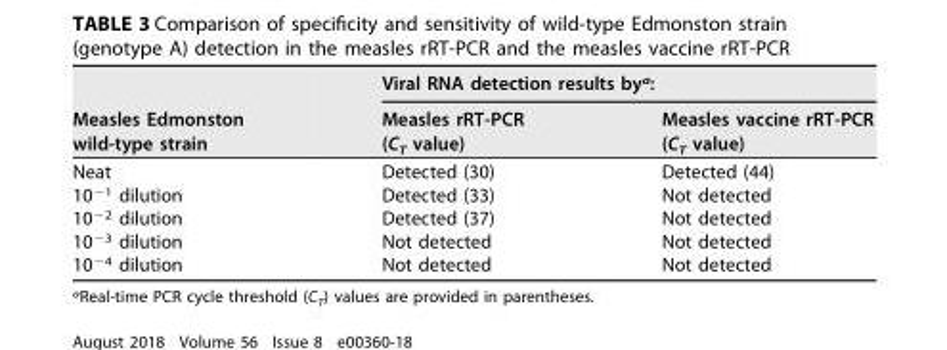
<table><thead><tr><td rowspan="2">Measles Edmonston wild-type strain</td><td colspan="2">Viral RNA detection results by<sup>a</sup>:</td></tr><tr><td>Measles rRT-PCR (C<sub>T</sub> value)</td><td>Measles vaccine rRT-PCR (C<sub>T</sub> value)</td></tr></thead><tbody><tr><td>Neat</td><td>Detected (30)</td><td>Detected (44)</td></tr><tr><td>10<sup>−1</sup> dilution</td><td>Detected (33)</td><td>Not detected</td></tr><tr><td>10<sup>−2</sup> dilution</td><td>Detected (37)</td><td>Not detected</td></tr><tr><td>10<sup>−3</sup> dilution</td><td>Not detected</td><td>Not detected</td></tr><tr><td>10<sup>−4</sup> dilution</td><td>Not detected</td><td>Not detected</td></tr></tbody></table>